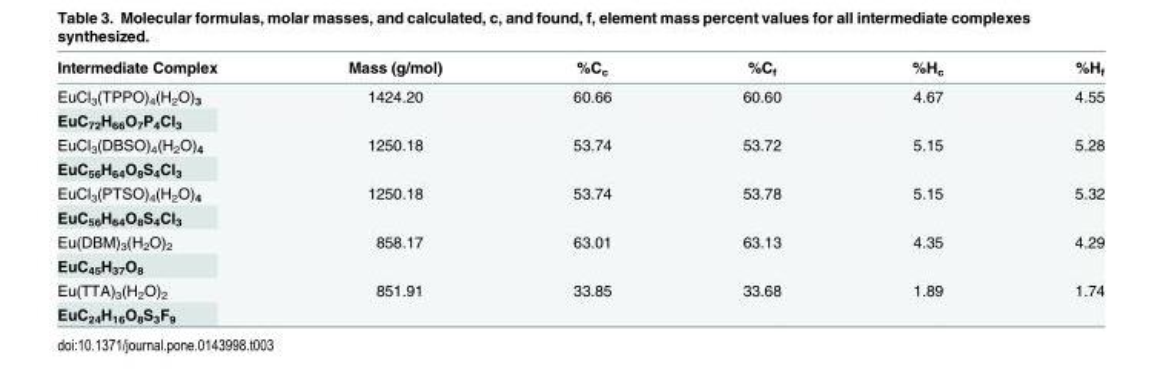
<table><thead><tr><td>Intermediate Complex</td><td>Mass (g/mol)</td><td>%C<sub>c</sub></td><td>%C<sub>f</sub></td><td>%H<sub>c</sub></td><td>%H<sub>f</sub></td></tr></thead><tbody><tr><td>EuCl<sub>3</sub>(TPPO)<sub>4</sub>(H<sub>2</sub>O)<sub>3</sub></td><td rowspan="2">1424.20</td><td rowspan="2">60.66</td><td rowspan="2">60.60</td><td rowspan="2">4.67</td><td rowspan="2">4.55</td></tr><tr><td>EuC<sub>72</sub>H<sub>66</sub>O<sub>7</sub>P<sub>4</sub>Cl<sub>3</sub></td></tr><tr><td>EuCl<sub>3</sub>(DBSO)<sub>4</sub>(H<sub>2</sub>O)<sub>4</sub></td><td rowspan="2">1250.18</td><td rowspan="2">53.74</td><td rowspan="2">53.72</td><td rowspan="2">5.15</td><td rowspan="2">5.28</td></tr><tr><td>EuC<sub>56</sub>H<sub>64</sub>O<sub>8</sub>S<sub>4</sub>Cl<sub>3</sub></td></tr><tr><td>EuCl<sub>3</sub>(PTSO)<sub>4</sub>(H<sub>2</sub>O)<sub>4</sub></td><td rowspan="2">1250.18</td><td rowspan="2">53.74</td><td rowspan="2">53.78</td><td rowspan="2">5.15</td><td rowspan="2">5.32</td></tr><tr><td>EuC<sub>56</sub>H<sub>64</sub>O<sub>8</sub>S<sub>4</sub>Cl<sub>3</sub></td></tr><tr><td>Eu(DBM)<sub>3</sub>(H<sub>2</sub>O)<sub>2</sub></td><td rowspan="2">858.17</td><td rowspan="2">63.01</td><td rowspan="2">63.13</td><td rowspan="2">4.35</td><td rowspan="2">4.29</td></tr><tr><td>EuC<sub>45</sub>H<sub>37</sub>O<sub>8</sub></td></tr><tr><td>Eu(TTA)<sub>3</sub>(H<sub>2</sub>O)<sub>2</sub></td><td rowspan="2">851.91</td><td rowspan="2">33.85</td><td rowspan="2">33.68</td><td rowspan="2">1.89</td><td rowspan="2">1.74</td></tr><tr><td>EuC<sub>24</sub>H<sub>16</sub>O<sub>8</sub>S<sub>3</sub>F<sub>9</sub></td></tr></tbody></table>